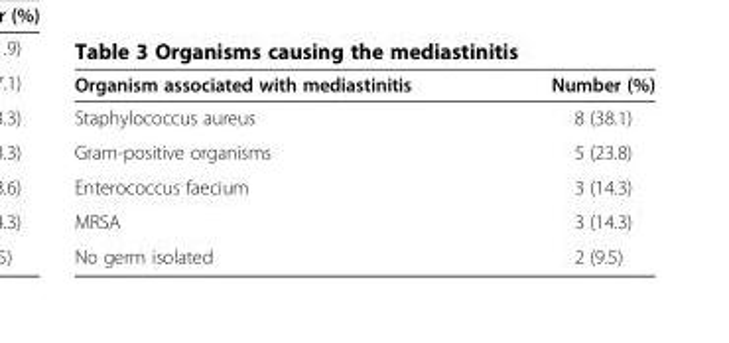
<table><thead><tr><td>Organism associated with mediastinitis</td><td>Number (%)</td></tr></thead><tbody><tr><td>Staphylococcus aureus</td><td>8 (38.1)</td></tr><tr><td>Gram-positive organisms</td><td>5 (23.8)</td></tr><tr><td>Enterococcus faecium</td><td>3 (14.3)</td></tr><tr><td>MRSA</td><td>3 (14.3)</td></tr><tr><td>No germ isolated</td><td>2 (9.5)</td></tr></tbody></table>